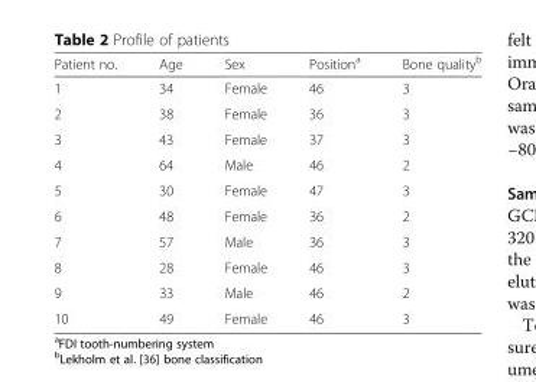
<table><thead><tr><td>Patient no.</td><td>Age</td><td>Sex</td><td>Position<sup>a</sup></td><td>Bone quality<sup>b</sup></td></tr></thead><tbody><tr><td>1</td><td>34</td><td>Female</td><td>46</td><td>3</td></tr><tr><td>2</td><td>38</td><td>Female</td><td>36</td><td>3</td></tr><tr><td>3</td><td>43</td><td>Female</td><td>37</td><td>3</td></tr><tr><td>4</td><td>64</td><td>Male</td><td>46</td><td>2</td></tr><tr><td>5</td><td>30</td><td>Female</td><td>47</td><td>3</td></tr><tr><td>6</td><td>48</td><td>Female</td><td>36</td><td>2</td></tr><tr><td>7</td><td>57</td><td>Male</td><td>36</td><td>3</td></tr><tr><td>8</td><td>28</td><td>Female</td><td>46</td><td>3</td></tr><tr><td>9</td><td>33</td><td>Male</td><td>46</td><td>2</td></tr><tr><td>10</td><td>49</td><td>Female</td><td>46</td><td>3</td></tr></tbody></table>